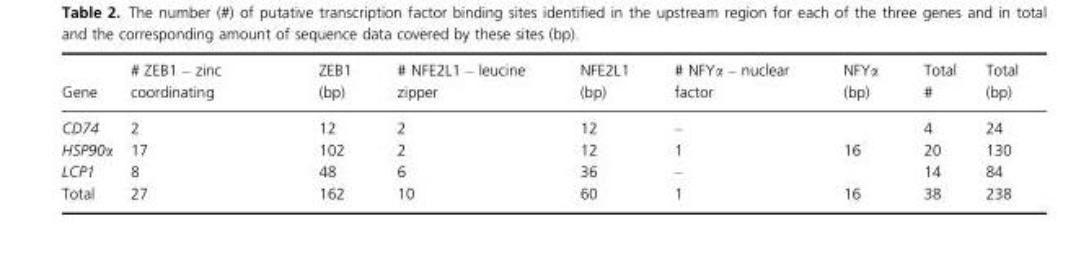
<table><thead><tr><td>Gene</td><td># ZEB1 – zinc coordinating</td><td>ZEB1 (bp)</td><td># NFE2L1 – leucine zipper</td><td>NFE2L1 (bp)</td><td># NFYα – nuclear factor</td><td>NFYα (bp)</td><td>Total #</td><td>Total (bp)</td></tr></thead><tbody><tr><td>CD74</td><td>2</td><td>12</td><td>2</td><td>12</td><td>–</td><td></td><td>4</td><td>24</td></tr><tr><td>HSP90α</td><td>17</td><td>102</td><td>2</td><td>12</td><td>1</td><td>16</td><td>20</td><td>130</td></tr><tr><td>LCP1</td><td>8</td><td>48</td><td>6</td><td>36</td><td>–</td><td></td><td>14</td><td>84</td></tr><tr><td>Total</td><td>27</td><td>162</td><td>10</td><td>60</td><td>1</td><td>16</td><td>38</td><td>238</td></tr></tbody></table>